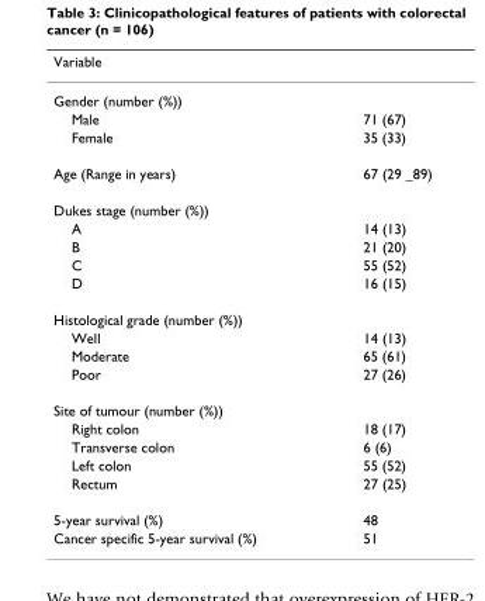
<table><thead><tr><td>Variable</td><td></td></tr></thead><tbody><tr><td colspan="2">Gender (number (%))</td></tr><tr><td>Male</td><td>71 (67)</td></tr><tr><td>Female</td><td>35 (33)</td></tr><tr><td>Age (Range in years)</td><td>67 (29 _89)</td></tr><tr><td colspan="2">Dukes stage (number (%))</td></tr><tr><td>A</td><td>14 (13)</td></tr><tr><td>B</td><td>21 (20)</td></tr><tr><td>C</td><td>55 (52)</td></tr><tr><td>D</td><td>16 (15)</td></tr><tr><td colspan="2">Histological grade (number (%))</td></tr><tr><td>Well</td><td>14 (13)</td></tr><tr><td>Moderate</td><td>65 (61)</td></tr><tr><td>Poor</td><td>27 (26)</td></tr><tr><td colspan="2">Site of tumour (number (%))</td></tr><tr><td>Right colon</td><td>18 (17)</td></tr><tr><td>Transverse colon</td><td>6 (6)</td></tr><tr><td>Left colon</td><td>55 (52)</td></tr><tr><td>Rectum</td><td>27 (25)</td></tr><tr><td>5-year survival (%)</td><td>48</td></tr><tr><td>Cancer specific 5-year survival (%)</td><td>51</td></tr></tbody></table>